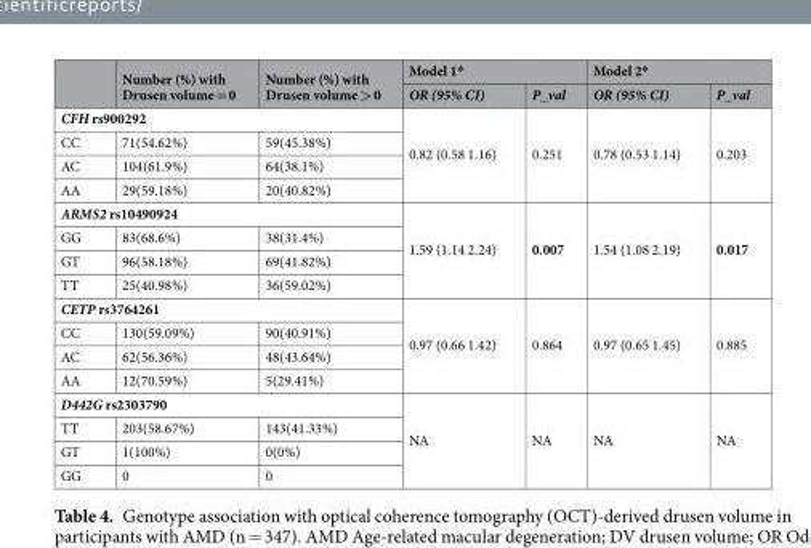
<table><thead><tr><td rowspan="2"></td><td rowspan="2">Number (%) with Drusen volume = 0</td><td rowspan="2">Number (%) with Drusen volume &gt; 0</td><td colspan="2">Model 1*</td><td colspan="2">Model 2*</td></tr><tr><td>OR (95% CI)</td><td>P_val</td><td>OR (95% CI)</td><td>P_val</td></tr></thead><tbody><tr><td colspan="3">CFH rs900292</td><td rowspan="4">0.82 (0.58 1.16)</td><td rowspan="4">0.251</td><td rowspan="4">0.78 (0.53 1.14)</td><td rowspan="4">0.203</td></tr><tr><td>CC</td><td>71(54.62%)</td><td>59(45.38%)</td></tr><tr><td>AC</td><td>104(61.9%)</td><td>64(38.1%)</td></tr><tr><td>AA</td><td>29(59.18%)</td><td>20(40.82%)</td></tr><tr><td colspan="3">ARMS2 rs10490924</td><td rowspan="4">1.59 (1.14 2.24)</td><td rowspan="4">0.007</td><td rowspan="4">1.54 (1.08 2.19)</td><td rowspan="4">0.017</td></tr><tr><td>GG</td><td>83(68.6%)</td><td>38(31.4%)</td></tr><tr><td>GT</td><td>96(58.18%)</td><td>69(41.82%)</td></tr><tr><td>TT</td><td>25(40.98%)</td><td>36(59.02%)</td></tr><tr><td colspan="3">CETP rs3764261</td><td rowspan="4">0.97 (0.66 1.42)</td><td rowspan="4">0.864</td><td rowspan="4">0.97 (0.65 1.45)</td><td rowspan="4">0.885</td></tr><tr><td>CC</td><td>130(59.09%)</td><td>90(40.91%)</td></tr><tr><td>AC</td><td>62(56.36%)</td><td>48(43.64%)</td></tr><tr><td>AA</td><td>12(70.59%)</td><td>5(29.41%)</td></tr><tr><td colspan="3">D442G rs2303790</td><td rowspan="4">NA</td><td rowspan="4">NA</td><td rowspan="4">NA</td><td rowspan="4">NA</td></tr><tr><td>TT</td><td>203(58.67%)</td><td>143(41.33%)</td></tr><tr><td>GT</td><td>1(100%)</td><td>0(0%)</td></tr><tr><td>GG</td><td>0</td><td>0</td></tr></tbody></table>